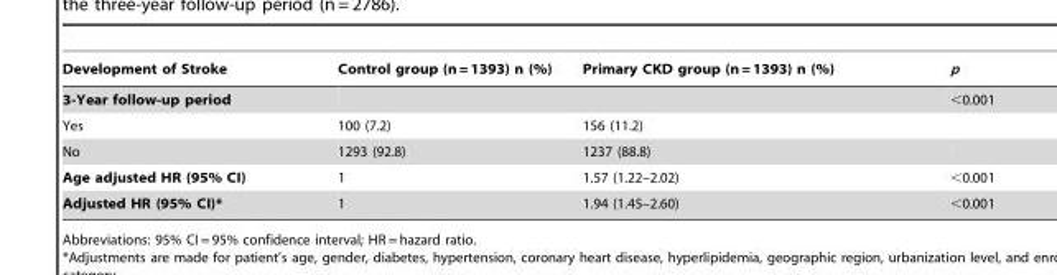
<table><thead><tr><td>Development of Stroke</td><td>Control group (n = 1393) n (%)</td><td>Primary CKD group (n = 1393) n (%)</td><td>p</td></tr></thead><tbody><tr><td>3-Year follow-up period</td><td></td><td></td><td>&lt;0.001</td></tr><tr><td>Yes</td><td>100 (7.2)</td><td>156 (11.2)</td><td></td></tr><tr><td>No</td><td>1293 (92.8)</td><td>1237 (88.8)</td><td></td></tr><tr><td>Age adjusted HR (95% CI)</td><td>1</td><td>1.57 (1.22–2.02)</td><td>&lt;0.001</td></tr><tr><td>Adjusted HR (95% CI)*</td><td>1</td><td>1.94 (1.45–2.60)</td><td>&lt;0.001</td></tr></tbody></table>